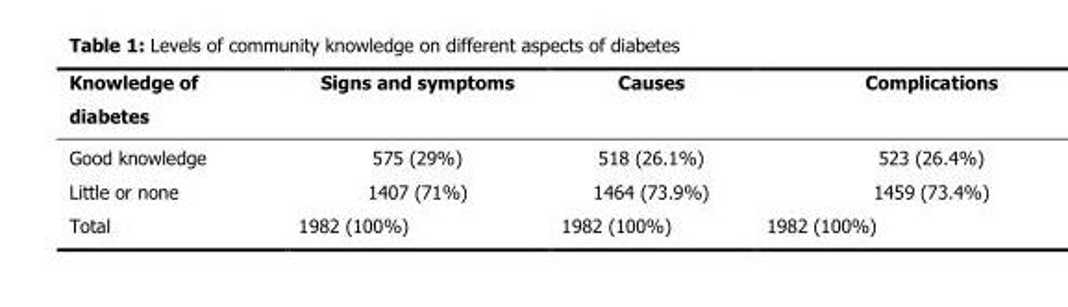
<table><thead><tr><td>Knowledge of diabetes</td><td>Signs and symptoms</td><td>Causes</td><td>Complications</td></tr></thead><tbody><tr><td>Good knowledge</td><td>575 (29%)</td><td>518 (26.1%)</td><td>523 (26.4%)</td></tr><tr><td>Little or none</td><td>1407 (71%)</td><td>1464 (73.9%)</td><td>1459 (73.4%)</td></tr><tr><td>Total</td><td>1982 (100%)</td><td>1982 (100%)</td><td>1982 (100%)</td></tr></tbody></table>